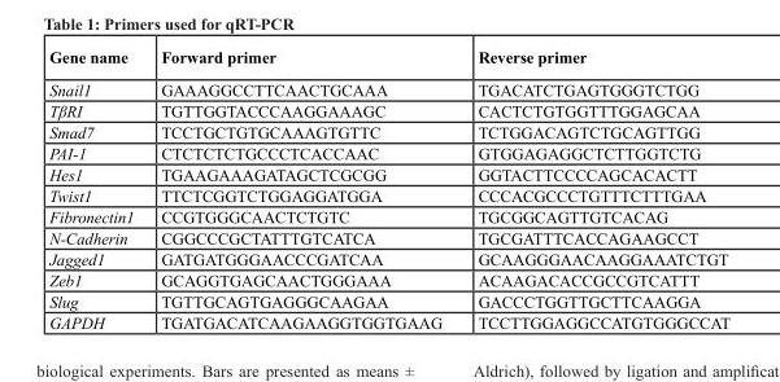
<table><thead><tr><td>Gene name</td><td>Forward primer</td><td>Reverse primer</td></tr></thead><tbody><tr><td>Snail1</td><td>GAAAGGCCTTCAACTGCAAA</td><td>TGACATCTGAGTGGGTCTGG</td></tr><tr><td>TβRI</td><td>TGTTGGTACCCAAGGAAAGC</td><td>CACTCTGTGGTTTGGAGCAA</td></tr><tr><td>Smad7</td><td>TCCTGCTGTGCAAAGTGTTC</td><td>TCTGGACAGTCTGCAGTTGG</td></tr><tr><td>PAI-1</td><td>CTCTCTCTGCCCTCACCAAC</td><td>GTGGAGAGGCTCTTGGTCTG</td></tr><tr><td>Hes1</td><td>TGAAGAAAGATAGCTCGCGG</td><td>GGTACTTCCCCAGCACACTT</td></tr><tr><td>Twist1</td><td>TTCTCGGTCTGGAGGATGGA</td><td>CCCACGCCCTGTTTCTTTGAA</td></tr><tr><td>Fibronectin1</td><td>CCGTGGGCAACTCTGTC</td><td>TGCGGCAGTTGTCACAG</td></tr><tr><td>N-Cadherin</td><td>CGGCCCGCTATTTGTCATCA</td><td>TGCGATTTCACCAGAAGCCT</td></tr><tr><td>Jagged1</td><td>GATGATGGGAACCCGATCAA</td><td>GCAAGGGAACAAGGAAATCTGT</td></tr><tr><td>Zeb1</td><td>GCAGGTGAGCAACTGGGAAA</td><td>ACAAGACACCGCCGTCATTT</td></tr><tr><td>Slug</td><td>TGTTGCAGTGAGGGCAAGAA</td><td>GACCCTGGTTGCTTCAAGGA</td></tr><tr><td>GAPDH</td><td>TGATGACATCAAGAAGGTGGTGAAG</td><td>TCCTTGGAGGCCATGTGGGCCAT</td></tr></tbody></table>